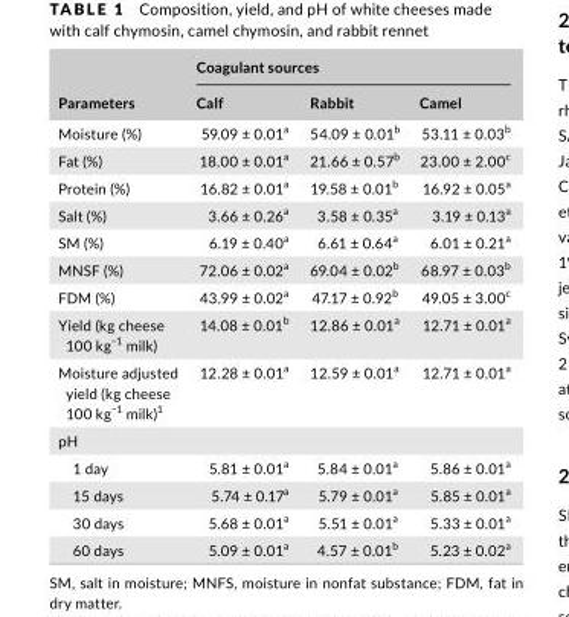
<table><thead><tr><td rowspan="2">Parameters</td><td colspan="3">Coagulant sources</td></tr><tr><td>Calf</td><td>Rabbit</td><td>Camel</td></tr></thead><tbody><tr><td>Moisture (%)</td><td>59.09 ± 0.01<sup>a</sup></td><td>54.09 ± 0.01<sup>b</sup></td><td>53.11 ± 0.03<sup>b</sup></td></tr><tr><td>Fat (%)</td><td>18.00 ± 0.01<sup>a</sup></td><td>21.66 ± 0.57<sup>b</sup></td><td>23.00 ± 2.00<sup>c</sup></td></tr><tr><td>Protein (%)</td><td>16.82 ± 0.01<sup>a</sup></td><td>19.58 ± 0.01<sup>b</sup></td><td>16.92 ± 0.05<sup>a</sup></td></tr><tr><td>Salt (%)</td><td>3.66 ± 0.26<sup>a</sup></td><td>3.58 ± 0.35<sup>a</sup></td><td>3.19 ± 0.13<sup>a</sup></td></tr><tr><td>SM (%)</td><td>6.19 ± 0.40<sup>a</sup></td><td>6.61 ± 0.64<sup>a</sup></td><td>6.01 ± 0.21<sup>a</sup></td></tr><tr><td>MNSF (%)</td><td>72.06 ± 0.02<sup>a</sup></td><td>69.04 ± 0.02<sup>b</sup></td><td>68.97 ± 0.03<sup>b</sup></td></tr><tr><td>FDM (%)</td><td>43.99 ± 0.02<sup>a</sup></td><td>47.17 ± 0.92<sup>b</sup></td><td>49.05 ± 3.00<sup>c</sup></td></tr><tr><td>Yield (kg cheese 100 kg<sup>−1</sup> milk)</td><td>14.08 ± 0.01<sup>b</sup></td><td>12.86 ± 0.01<sup>a</sup></td><td>12.71 ± 0.01<sup>a</sup></td></tr><tr><td>Moisture adjusted yield (kg cheese 100 kg−1 milk)1</td><td>12.28 ± 0.01<sup>a</sup></td><td>12.59 ± 0.01<sup>a</sup></td><td>12.71 ± 0.01<sup>a</sup></td></tr><tr><td colspan="4">pH</td></tr><tr><td>1 day</td><td>5.81 ± 0.01<sup>a</sup></td><td>5.84 ± 0.01<sup>a</sup></td><td>5.86 ± 0.01<sup>a</sup></td></tr><tr><td>15 days</td><td>5.74 ± 0.17<sup>a</sup></td><td>5.79 ± 0.01<sup>a</sup></td><td>5.85 ± 0.01<sup>a</sup></td></tr><tr><td>30 days</td><td>5.68 ± 0.01<sup>a</sup></td><td>5.51 ± 0.01<sup>a</sup></td><td>5.33 ± 0.01<sup>a</sup></td></tr><tr><td>60 days</td><td>5.09 ± 0.01<sup>a</sup></td><td>4.57 ± 0.01<sup>b</sup></td><td>5.23 ± 0.02<sup>a</sup></td></tr></tbody></table>